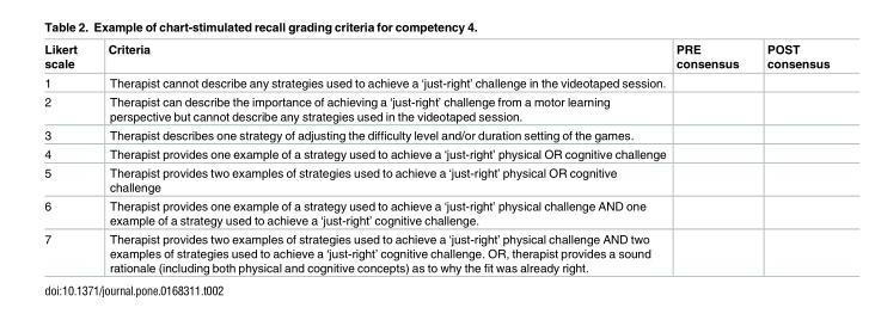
<table><thead><tr><td>Likert scale</td><td>Criteria</td><td>PRE consensus</td><td>POST consensus</td></tr></thead><tbody><tr><td>1</td><td>Therapist cannot describe any strategies used to achieve a ‘just-right’ challenge in the videotaped session.</td><td></td><td></td></tr><tr><td>2</td><td>Therapist can describe the importance of achieving a ‘just-right’ challenge from a motor learning perspective but cannot describe any strategies used in the videotaped session.</td><td></td><td></td></tr><tr><td>3</td><td>Therapist describes one strategy of adjusting the difficulty level and/or duration setting of the games.</td><td></td><td></td></tr><tr><td>4</td><td>Therapist provides one example of a strategy used to achieve a ‘just-right’ physical OR cognitive challenge</td><td></td><td></td></tr><tr><td>5</td><td>Therapist provides two examples of strategies used to achieve a ‘just-right’ physical OR cognitive challenge</td><td></td><td></td></tr><tr><td>6</td><td>Therapist provides one example of a strategy used to achieve a ‘just-right’ physical challenge AND one example of a strategy used to achieve a ‘just-right’ cognitive challenge.</td><td></td><td></td></tr><tr><td>7</td><td>Therapist provides two examples of strategies used to achieve a ‘just-right’ physical challenge AND two examples of strategies used to achieve a ‘just-right’ cognitive challenge. OR, therapist provides a sound rationale (including both physical and cognitive concepts) as to why the fit was already right.</td><td></td><td></td></tr></tbody></table>